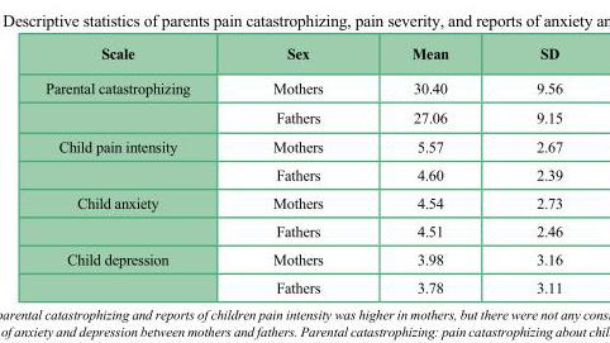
<table><thead><tr><td>Scale</td><td>Sex</td><td>Mean</td><td>SD</td></tr></thead><tbody><tr><td rowspan="2">Parental catastrophizing</td><td>Mothers</td><td>30.40</td><td>9.56</td></tr><tr><td>Fathers</td><td>27.06</td><td>9.15</td></tr><tr><td rowspan="2">Child pain intensity</td><td>Mothers</td><td>5.57</td><td>2.67</td></tr><tr><td>Fathers</td><td>4.60</td><td>2.39</td></tr><tr><td rowspan="2">Child anxiety</td><td>Mothers</td><td>4.54</td><td>2.73</td></tr><tr><td>Fathers</td><td>4.51</td><td>2.46</td></tr><tr><td rowspan="2">Child depression</td><td>Mothers</td><td>3.98</td><td>3.16</td></tr><tr><td>Fathers</td><td>3.78</td><td>3.11</td></tr></tbody></table>